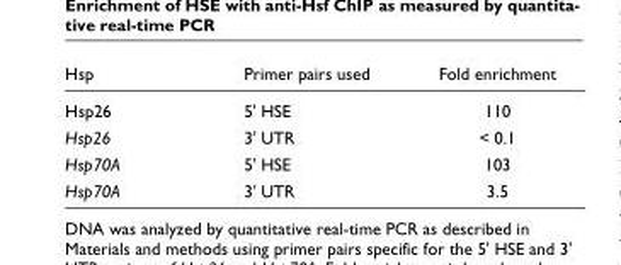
<table><thead><tr><td>Hsp</td><td>Primer pairs used</td><td>Fold enrichment</td></tr></thead><tbody><tr><td>Hsp26</td><td>5&#x27; HSE</td><td>110</td></tr><tr><td>Hsp26</td><td>3&#x27; UTR</td><td>&lt; 0.1</td></tr><tr><td>Hsp70A</td><td>5&#x27; HSE</td><td>103</td></tr><tr><td>Hsp70A</td><td>3&#x27; UTR</td><td>3.5</td></tr></tbody></table>